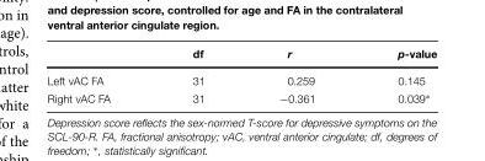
<table><thead><tr><td></td><td>df</td><td>r</td><td>p-value</td></tr></thead><tbody><tr><td>Left vAC FA</td><td>31</td><td>0.259</td><td>0.145</td></tr><tr><td>Right vAC FA</td><td>31</td><td>−0.361</td><td>0.039∗</td></tr></tbody></table>